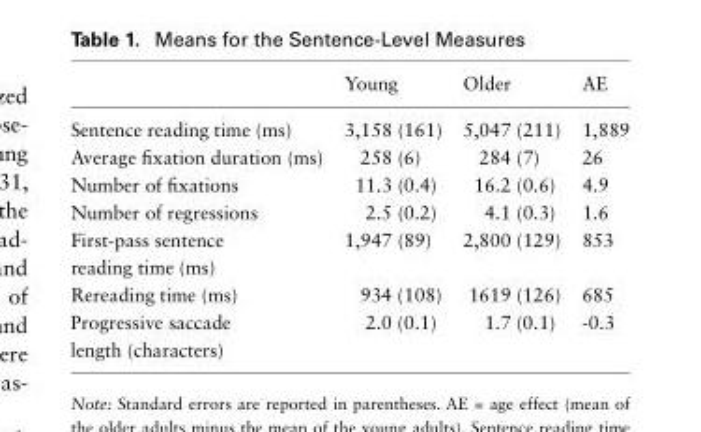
<table><thead><tr><td></td><td>Young</td><td>Older</td><td>AE</td></tr></thead><tbody><tr><td>Sentence reading time (ms)</td><td>3,158 (161)</td><td>5,047 (211)</td><td>1,889</td></tr><tr><td>Average fixation duration (ms)</td><td>258 (6)</td><td>284 (7)</td><td>26</td></tr><tr><td>Number of fixations</td><td>11.3 (0.4)</td><td>16.2 (0.6)</td><td>4.9</td></tr><tr><td>Number of regressions</td><td>2.5 (0.2)</td><td>4.1 (0.3)</td><td>1.6</td></tr><tr><td>First-pass sentence reading time (ms)</td><td>1,947 (89)</td><td>2,800 (129)</td><td>853</td></tr><tr><td>Rereading time (ms)</td><td>934 (108)</td><td>1619 (126)</td><td>685</td></tr><tr><td>Progressive saccade length (characters)</td><td>2.0 (0.1)</td><td>1.7 (0.1)</td><td>-0.3</td></tr></tbody></table>